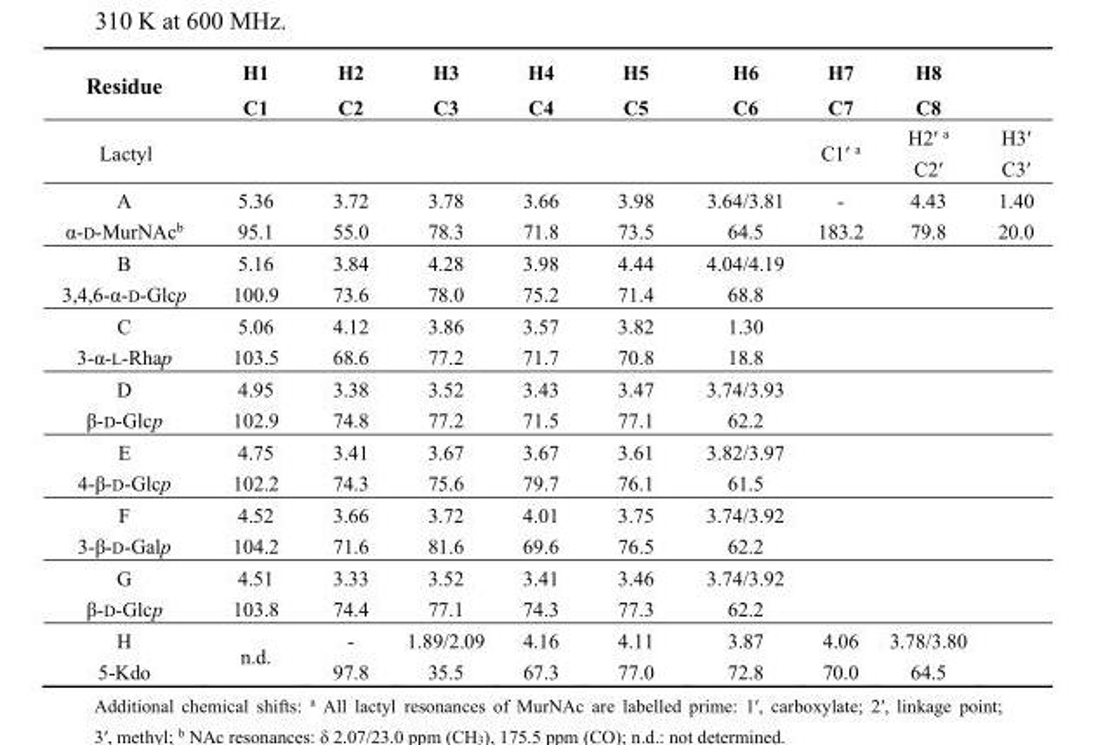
<table><thead><tr><td>Residue</td><td>H1 C1</td><td>H2 C2</td><td>H3 C3</td><td>H4 C4</td><td>H5 C5</td><td>H6 C6</td><td>H7 C7</td><td>H8 C8</td><td></td></tr></thead><tbody><tr><td>Lactyl</td><td></td><td></td><td></td><td></td><td></td><td></td><td>C1′ <sup>a</sup></td><td>H2′ <sup>a</sup> C2′</td><td>H3′ C3′</td></tr><tr><td>A α-D-MurNAc<sup>b</sup></td><td>5.36 95.1</td><td>3.72 55.0</td><td>3.78 78.3</td><td>3.66 71.8</td><td>3.98 73.5</td><td>3.64/3.81 64.5</td><td>- 183.2</td><td>4.43 79.8</td><td>1.40 20.0</td></tr><tr><td>B 3,4,6-α-D-Glcp</td><td>5.16 100.9</td><td>3.84 73.6</td><td>4.28 78.0</td><td>3.98 75.2</td><td>4.44 71.4</td><td>4.04/4.19 68.8</td><td></td><td></td><td></td></tr><tr><td>C 3-α-L-Rhap</td><td>5.06 103.5</td><td>4.12 68.6</td><td>3.86 77.2</td><td>3.57 71.7</td><td>3.82 70.8</td><td>1.30 18.8</td><td></td><td></td><td></td></tr><tr><td>D β-D-Glcp</td><td>4.95 102.9</td><td>3.38 74.8</td><td>3.52 77.2</td><td>3.43 71.5</td><td>3.47 77.1</td><td>3.74/3.93 62.2</td><td></td><td></td><td></td></tr><tr><td>E 4-β-D-Glcp</td><td>4.75 102.2</td><td>3.41 74.3</td><td>3.67 75.6</td><td>3.67 79.7</td><td>3.61 76.1</td><td>3.82/3.97 61.5</td><td></td><td></td><td></td></tr><tr><td>F 3-β-D-Galp</td><td>4.52 104.2</td><td>3.66 71.6</td><td>3.72 81.6</td><td>4.01 69.6</td><td>3.75 76.5</td><td>3.74/3.92 62.2</td><td></td><td></td><td></td></tr><tr><td>G β-D-Glcp</td><td>4.51 103.8</td><td>3.33 74.4</td><td>3.52 77.1</td><td>3.41 74.3</td><td>3.46 77.3</td><td>3.74/3.92 62.2</td><td></td><td></td><td></td></tr><tr><td>H 5-Kdo</td><td>n.d.</td><td>- 97.8</td><td>1.89/2.09 35.5</td><td>4.16 67.3</td><td>4.11 77.0</td><td>3.87 72.8</td><td>4.06 70.0</td><td>3.78/3.80 64.5</td><td></td></tr></tbody></table>